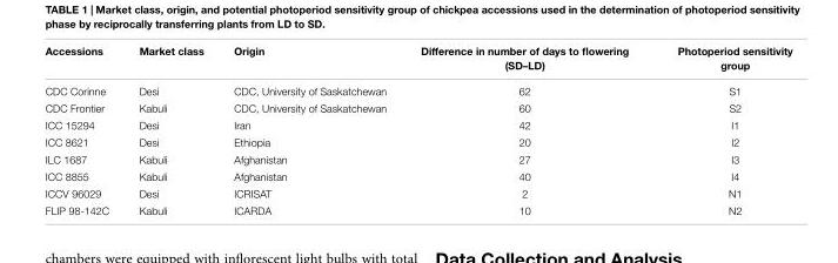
<table><thead><tr><td>Accessions</td><td>Market class</td><td>Origin</td><td>Difference in number of days to flowering (SD–LD)</td><td>Photoperiod sensitivity group</td></tr></thead><tbody><tr><td>CDC Corinne</td><td>Desi</td><td>CDC, University of Saskatchewan</td><td>62</td><td>S1</td></tr><tr><td>CDC Frontier</td><td>Kabuli</td><td>CDC, University of Saskatchewan</td><td>60</td><td>S2</td></tr><tr><td>ICC 15294</td><td>Desi</td><td>Iran</td><td>42</td><td>I1</td></tr><tr><td>ICC 8621</td><td>Desi</td><td>Ethiopia</td><td>20</td><td>I2</td></tr><tr><td>ILC 1687</td><td>Kabuli</td><td>Afghanistan</td><td>27</td><td>I3</td></tr><tr><td>ICC 8855</td><td>Kabuli</td><td>Afghanistan</td><td>40</td><td>I4</td></tr><tr><td>ICCV 96029</td><td>Desi</td><td>ICRISAT</td><td>2</td><td>N1</td></tr><tr><td>FLIP 98-142C</td><td>Kabuli</td><td>ICARDA</td><td>10</td><td>N2</td></tr></tbody></table>